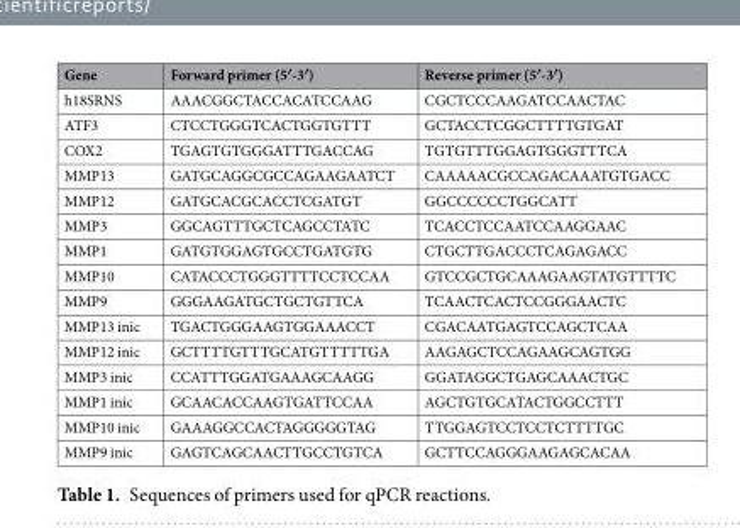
<table><thead><tr><td>Gene</td><td>Forward primer (5′-3′)</td><td>Reverse primer (5′-3′)</td></tr></thead><tbody><tr><td>h18SRNS</td><td>AAACGGCTACCACATCCAAG</td><td>CGCTCCCAAGATCCAACTAC</td></tr><tr><td>ATF3</td><td>CTCCTGGGTCACTGGTGTTT</td><td>GCTACCTCGGCTTTTGTGAT</td></tr><tr><td>COX2</td><td>TGAGTGTGGGATTTGACCAG</td><td>TGTGTTTGGAGTGGGTTTCA</td></tr><tr><td>MMP13</td><td>GATGCAGGCGCCAGAAGAATCT</td><td>CAAAAACGCCAGACAAATGTGACC</td></tr><tr><td>MMP12</td><td>GATGCACGCACCTCGATGT</td><td>GGCCCCCCTGGCATT</td></tr><tr><td>MMP3</td><td>GGCAGTTTGCTCAGCCTATC</td><td>TCACCTCCAATCCAAGGAAC</td></tr><tr><td>MMP1</td><td>GATGTGGAGTGCCTGATGTG</td><td>CTGCTTGACCCTCAGAGACC</td></tr><tr><td>MMP10</td><td>CATACCCTGGGTTTTCCTCCAA</td><td>GTCCGCTGCAAAGAAGTATGTTTTC</td></tr><tr><td>MMP9</td><td>GGGAAGATGCTGCTGTTCA</td><td>TCAACTCACTCCGGGAACTC</td></tr><tr><td>MMP13 inic</td><td>TGACTGGGAAGTGGAAACCT</td><td>CGACAATGAGTCCAGCTCAA</td></tr><tr><td>MMP12 inic</td><td>GCTTTTGTTTGCATGTTTTTGA</td><td>AAGAGCTCCAGAAGCAGTGG</td></tr><tr><td>MMP3 inic</td><td>CCATTTGGATGAAAGCAAGG</td><td>GGATAGGCTGAGCAAACTGC</td></tr><tr><td>MMP1 inic</td><td>GCAACACCAAGTGATTCCAA</td><td>AGCTGTGCATACTGGCCTTT</td></tr><tr><td>MMP10 inic</td><td>GAAAGGCCACTAGGGGGTAG</td><td>TTGGAGTCCTCCTCTTTTGC</td></tr><tr><td>MMP9 inic</td><td>GAGTCAGCAACTTGCCTGTCA</td><td>GCTTCCAGGGAAGAGCACAA</td></tr></tbody></table>